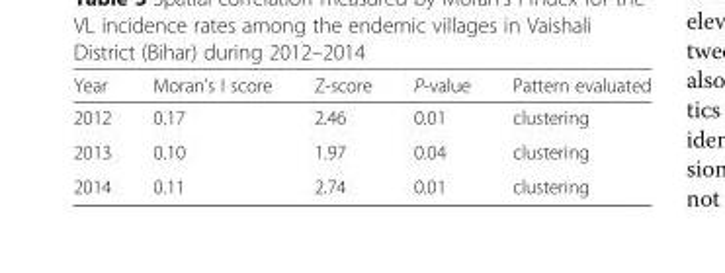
<table><thead><tr><td>Year</td><td>Moran’s I score</td><td>Z-score</td><td>P-value</td><td>Pattern evaluated</td></tr></thead><tbody><tr><td>2012</td><td>0.17</td><td>2.46</td><td>0.01</td><td>clustering</td></tr><tr><td>2013</td><td>0.10</td><td>1.97</td><td>0.04</td><td>clustering</td></tr><tr><td>2014</td><td>0.11</td><td>2.74</td><td>0.01</td><td>clustering</td></tr></tbody></table>